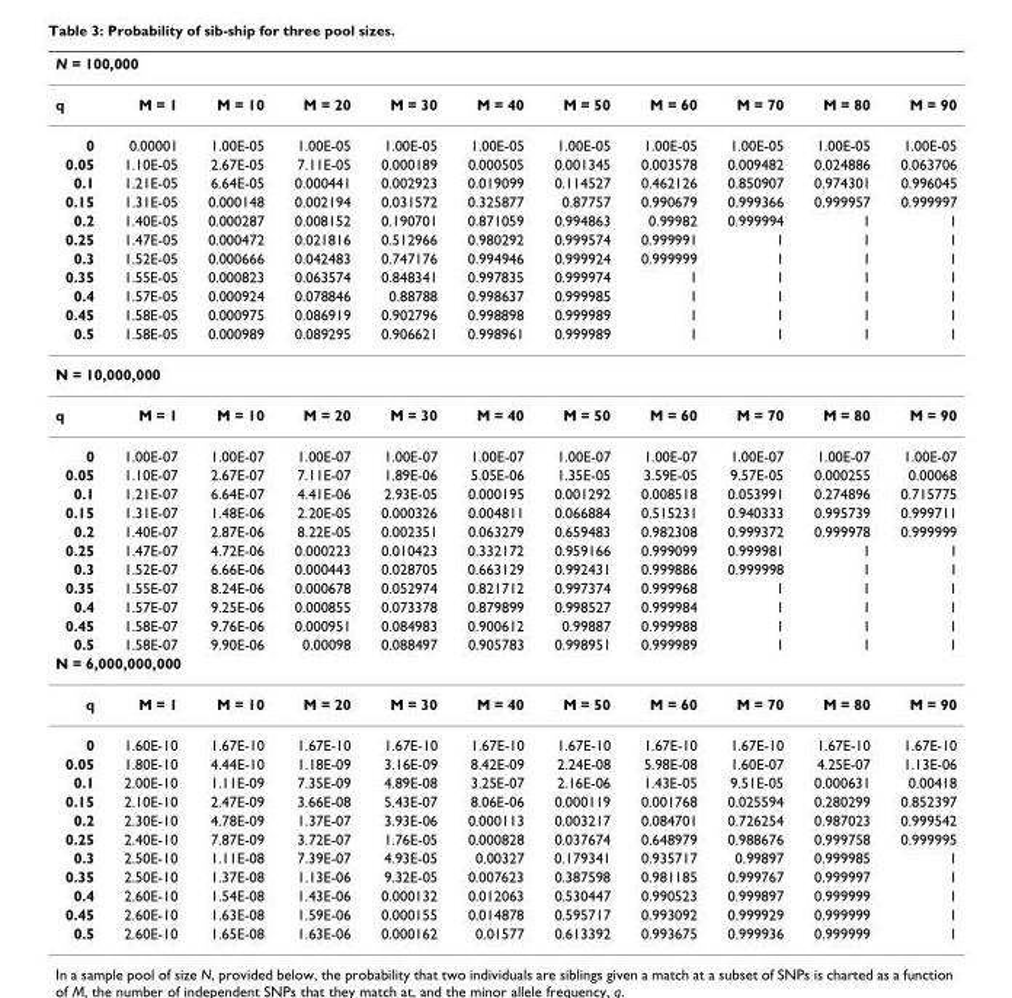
<table><thead><tr><td colspan="11">N = 100,000</td></tr><tr><td>q</td><td>M = 1</td><td>M = 10</td><td>M = 20</td><td>M = 30</td><td>M = 40</td><td>M = 50</td><td>M = 60</td><td>M = 70</td><td>M = 80</td><td>M = 90</td></tr></thead><tbody><tr><td>0</td><td>0.00001</td><td>1.00E-05</td><td>1.00E-05</td><td>1.00E-05</td><td>1.00E-05</td><td>1.00E-05</td><td>1.00E-05</td><td>1.00E-05</td><td>1.00E-05</td><td>1.00E-05</td></tr><tr><td>0.05</td><td>1.10E-05</td><td>2.67E-05</td><td>7.11E-05</td><td>0.000189</td><td>0.000505</td><td>0.001345</td><td>0.003578</td><td>0.009482</td><td>0.024886</td><td>0.063706</td></tr><tr><td>0.1</td><td>1.21E-05</td><td>6.64E-05</td><td>0.000441</td><td>0.002923</td><td>0.019099</td><td>0.114527</td><td>0.462126</td><td>0.850907</td><td>0.974301</td><td>0.996045</td></tr><tr><td>0.15</td><td>1.31E-05</td><td>0.000148</td><td>0.002194</td><td>0.031572</td><td>0.325877</td><td>0.87757</td><td>0.990679</td><td>0.999366</td><td>0.999957</td><td>0.999997</td></tr><tr><td>0.2</td><td>1.40E-05</td><td>0.000287</td><td>0.008152</td><td>0.190701</td><td>0.871059</td><td>0.994863</td><td>0.99982</td><td>0.999994</td><td>1</td><td>1</td></tr><tr><td>0.25</td><td>1.47E-05</td><td>0.000472</td><td>0.021816</td><td>0.512966</td><td>0.980292</td><td>0.999574</td><td>0.999991</td><td>1</td><td>1</td><td>1</td></tr><tr><td>0.3</td><td>1.52E-05</td><td>0.000666</td><td>0.042483</td><td>0.747176</td><td>0.994946</td><td>0.999924</td><td>0.999999</td><td>1</td><td>1</td><td>1</td></tr><tr><td>0.35</td><td>1.55E-05</td><td>0.000823</td><td>0.063574</td><td>0.848341</td><td>0.997835</td><td>0.999974</td><td>1</td><td>1</td><td>1</td><td>1</td></tr><tr><td>0.4</td><td>1.57E-05</td><td>0.000924</td><td>0.078846</td><td>0.88788</td><td>0.998637</td><td>0.999985</td><td>1</td><td>1</td><td>1</td><td>1</td></tr><tr><td>0.45</td><td>1.58E-05</td><td>0.000975</td><td>0.086919</td><td>0.902796</td><td>0.998898</td><td>0.999989</td><td>1</td><td>1</td><td>1</td><td>1</td></tr><tr><td>0.5</td><td>1.58E-05</td><td>0.000989</td><td>0.089295</td><td>0.906621</td><td>0.998961</td><td>0.999989</td><td>1</td><td>1</td><td>1</td><td>1</td></tr><tr><td colspan="11">N = 10,000,000</td></tr><tr><td>q</td><td>M = 1</td><td>M = 10</td><td>M = 20</td><td>M = 30</td><td>M = 40</td><td>M = 50</td><td>M = 60</td><td>M = 70</td><td>M = 80</td><td>M = 90</td></tr><tr><td>0</td><td>1.00E-07</td><td>1.00E-07</td><td>1.00E-07</td><td>1.00E-07</td><td>1.00E-07</td><td>1.00E-07</td><td>1.00E-07</td><td>1.00E-07</td><td>1.00E-07</td><td>1.00E-07</td></tr><tr><td>0.05</td><td>1.10E-07</td><td>2.67E-07</td><td>7.11E-07</td><td>1.89E-06</td><td>5.05E-06</td><td>1.35E-05</td><td>3.59E-05</td><td>9.57E-05</td><td>0.000255</td><td>0.00068</td></tr><tr><td>0.1</td><td>1.21E-07</td><td>6.64E-07</td><td>4.41E-06</td><td>2.93E-05</td><td>0.000195</td><td>0.001292</td><td>0.008518</td><td>0.053991</td><td>0.274896</td><td>0.715775</td></tr><tr><td>0.15</td><td>1.31E-07</td><td>1.48E-06</td><td>2.20E-05</td><td>0.000326</td><td>0.004811</td><td>0.066884</td><td>0.515231</td><td>0.940333</td><td>0.995739</td><td>0.999711</td></tr><tr><td>0.2</td><td>1.40E-07</td><td>2.87E-06</td><td>8.22E-05</td><td>0.002351</td><td>0.063279</td><td>0.659483</td><td>0.982308</td><td>0.999372</td><td>0.999978</td><td>0.999999</td></tr><tr><td>0.25</td><td>1.47E-07</td><td>4.72E-06</td><td>0.000223</td><td>0.010423</td><td>0.332172</td><td>0.959166</td><td>0.999099</td><td>0.999981</td><td>1</td><td>1</td></tr><tr><td>0.3</td><td>1.52E-07</td><td>6.66E-06</td><td>0.000443</td><td>0.028705</td><td>0.663129</td><td>0.992431</td><td>0.999886</td><td>0.999998</td><td>1</td><td>1</td></tr><tr><td>0.35</td><td>1.55E-07</td><td>8.24E-06</td><td>0.000678</td><td>0.052974</td><td>0.821712</td><td>0.997374</td><td>0.999968</td><td>1</td><td>1</td><td>1</td></tr><tr><td>0.4</td><td>1.57E-07</td><td>9.25E-06</td><td>0.000855</td><td>0.073378</td><td>0.879899</td><td>0.998527</td><td>0.999984</td><td>1</td><td>1</td><td>1</td></tr><tr><td>0.45</td><td>1.58E-07</td><td>9.76E-06</td><td>0.000951</td><td>0.084983</td><td>0.900612</td><td>0.99887</td><td>0.999988</td><td>1</td><td>1</td><td>1</td></tr><tr><td>0.5</td><td>1.58E-07</td><td>9.90E-06</td><td>0.00098</td><td>0.088497</td><td>0.905783</td><td>0.998951</td><td>0.999989</td><td>1</td><td>1</td><td>1</td></tr><tr><td colspan="11">N = 6,000,000,000</td></tr><tr><td>q</td><td>M = 1</td><td>M = 10</td><td>M = 20</td><td>M = 30</td><td>M = 40</td><td>M = 50</td><td>M = 60</td><td>M = 70</td><td>M = 80</td><td>M = 90</td></tr><tr><td>0</td><td>1.60E-10</td><td>1.67E-10</td><td>1.67E-10</td><td>1.67E-10</td><td>1.67E-10</td><td>1.67E-10</td><td>1.67E-10</td><td>1.67E-10</td><td>1.67E-10</td><td>1.67E-10</td></tr><tr><td>0.05</td><td>1.80E-10</td><td>4.44E-10</td><td>1.18E-09</td><td>3.16E-09</td><td>8.42E-09</td><td>2.24E-08</td><td>5.98E-08</td><td>1.60E-07</td><td>4.25E-07</td><td>1.13E-06</td></tr><tr><td>0.1</td><td>2.00E-10</td><td>1.11E-09</td><td>7.35E-09</td><td>4.89E-08</td><td>3.25E-07</td><td>2.16E-06</td><td>1.43E-05</td><td>9.51E-05</td><td>0.000631</td><td>0.00418</td></tr><tr><td>0.15</td><td>2.10E-10</td><td>2.47E-09</td><td>3.66E-08</td><td>5.43E-07</td><td>8.06E-06</td><td>0.000119</td><td>0.001768</td><td>0.025594</td><td>0.280299</td><td>0.852397</td></tr><tr><td>0.2</td><td>2.30E-10</td><td>4.78E-09</td><td>1.37E-07</td><td>3.93E-06</td><td>0.000113</td><td>0.003217</td><td>0.084701</td><td>0.726254</td><td>0.987023</td><td>0.999542</td></tr><tr><td>0.25</td><td>2.40E-10</td><td>7.87E-09</td><td>3.72E-07</td><td>1.76E-05</td><td>0.000828</td><td>0.037674</td><td>0.648979</td><td>0.988676</td><td>0.999758</td><td>0.999995</td></tr><tr><td>0.3</td><td>2.50E-10</td><td>1.11E-08</td><td>7.39E-07</td><td>4.93E-05</td><td>0.00327</td><td>0.179341</td><td>0.935717</td><td>0.99897</td><td>0.999985</td><td>1</td></tr><tr><td>0.35</td><td>2.50E-10</td><td>1.37E-08</td><td>1.13E-06</td><td>9.32E-05</td><td>0.007623</td><td>0.387598</td><td>0.981185</td><td>0.999767</td><td>0.999997</td><td>1</td></tr><tr><td>0.4</td><td>2.60E-10</td><td>1.54E-08</td><td>1.43E-06</td><td>0.000132</td><td>0.012063</td><td>0.530447</td><td>0.990523</td><td>0.999897</td><td>0.999999</td><td>1</td></tr><tr><td>0.45</td><td>2.60E-10</td><td>1.63E-08</td><td>1.59E-06</td><td>0.000155</td><td>0.014878</td><td>0.595717</td><td>0.993092</td><td>0.999929</td><td>0.999999</td><td>1</td></tr><tr><td>0.5</td><td>2.60E-10</td><td>1.65E-08</td><td>1.63E-06</td><td>0.000162</td><td>0.01577</td><td>0.613392</td><td>0.993675</td><td>0.999936</td><td>0.999999</td><td>1</td></tr></tbody></table>